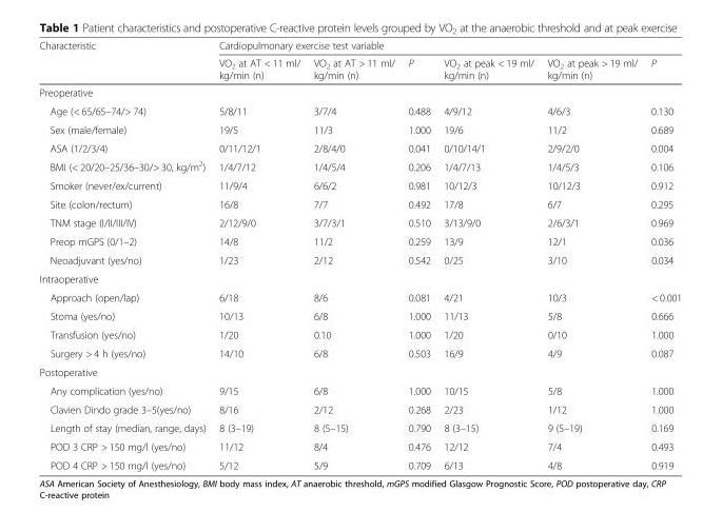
<table><thead><tr><td rowspan="2">Characteristic</td><td colspan="6">Cardiopulmonary exercise test variable</td></tr><tr><td>VO<sub>2</sub> at AT &lt; 11 ml/ kg/min (n)</td><td>VO<sub>2</sub> at AT &gt; 11 ml/ kg/min (n)</td><td>P</td><td>VO<sub>2</sub> at peak &lt; 19 ml/ kg/min (n)</td><td>VO<sub>2</sub> at peak &gt; 19 ml/ kg/min (n)</td><td>P</td></tr></thead><tbody><tr><td colspan="7">Preoperative</td></tr><tr><td>Age (&lt; 65/65–74/&gt; 74)</td><td>5/8/11</td><td>3/7/4</td><td>0.488</td><td>4/9/12</td><td>4/6/3</td><td>0.130</td></tr><tr><td>Sex (male/female)</td><td>19/5</td><td>11/3</td><td>1.000</td><td>19/6</td><td>11/2</td><td>0.689</td></tr><tr><td>ASA (1/2/3/4)</td><td>0/11/12/1</td><td>2/8/4/0</td><td>0.041</td><td>0/10/14/1</td><td>2/9/2/0</td><td>0.004</td></tr><tr><td>BMI (&lt; 20/20–25/36–30/&gt; 30, kg/m<sup>2</sup>)</td><td>1/4/7/12</td><td>1/4/5/4</td><td>0.206</td><td>1/4/7/13</td><td>1/4/5/3</td><td>0.106</td></tr><tr><td>Smoker (never/ex/current)</td><td>11/9/4</td><td>6/6/2</td><td>0.981</td><td>10/12/3</td><td>10/12/3</td><td>0.912</td></tr><tr><td>Site (colon/rectum)</td><td>16/8</td><td>7/7</td><td>0.492</td><td>17/8</td><td>6/7</td><td>0.295</td></tr><tr><td>TNM stage (I/II/III/IV)</td><td>2/12/9/0</td><td>3/7/3/1</td><td>0.510</td><td>3/13/9/0</td><td>2/6/3/1</td><td>0.969</td></tr><tr><td>Preop mGPS (0/1–2)</td><td>14/8</td><td>11/2</td><td>0.259</td><td>13/9</td><td>12/1</td><td>0.036</td></tr><tr><td>Neoadjuvant (yes/no)</td><td>1/23</td><td>2/12</td><td>0.542</td><td>0/25</td><td>3/10</td><td>0.034</td></tr><tr><td colspan="7">Intraoperative</td></tr><tr><td>Approach (open/lap)</td><td>6/18</td><td>8/6</td><td>0.081</td><td>4/21</td><td>10/3</td><td>&lt; 0.001</td></tr><tr><td>Stoma (yes/no)</td><td>10/13</td><td>6/8</td><td>1.000</td><td>11/13</td><td>5/8</td><td>0.666</td></tr><tr><td>Transfusion (yes/no)</td><td>1/20</td><td>0.10</td><td>1.000</td><td>1/20</td><td>0/10</td><td>1.000</td></tr><tr><td>Surgery &gt; 4 h (yes/no)</td><td>14/10</td><td>6/8</td><td>0.503</td><td>16/9</td><td>4/9</td><td>0.087</td></tr><tr><td colspan="7">Postoperative</td></tr><tr><td>Any complication (yes/no)</td><td>9/15</td><td>6/8</td><td>1.000</td><td>10/15</td><td>5/8</td><td>1.000</td></tr><tr><td>Clavien Dindo grade 3–5(yes/no)</td><td>8/16</td><td>2/12</td><td>0.268</td><td>2/23</td><td>1/12</td><td>1.000</td></tr><tr><td>Length of stay (median, range, days)</td><td>8 (3–19)</td><td>8 (5–15)</td><td>0.790</td><td>8 (3–15)</td><td>9 (5–19)</td><td>0.169</td></tr><tr><td>POD 3 CRP &gt; 150 mg/l (yes/no)</td><td>11/12</td><td>8/4</td><td>0.476</td><td>12/12</td><td>7/4</td><td>0.493</td></tr><tr><td>POD 4 CRP &gt; 150 mg/l (yes/no)</td><td>5/12</td><td>5/9</td><td>0.709</td><td>6/13</td><td>4/8</td><td>0.919</td></tr></tbody></table>